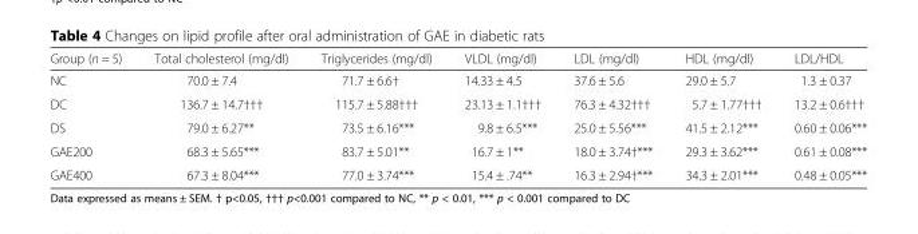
<table><thead><tr><td>Group (n = 5)</td><td>Total cholesterol (mg/dl)</td><td>Triglycerides (mg/dl)</td><td>VLDL (mg/dl)</td><td>LDL (mg/dl)</td><td>HDL (mg/dl)</td><td>LDL/HDL</td></tr></thead><tbody><tr><td>NC</td><td>70.0 ± 7.4</td><td>71.7 ± 6.6†</td><td>14.33 ± 4.5</td><td>37.6 ± 5.6</td><td>29.0 ± 5.7</td><td>1.3 ± 0.37</td></tr><tr><td>DC</td><td>136.7 ± 14.7†††</td><td>115.7 ± 5.88†††</td><td>23.13 ± 1.1†††</td><td>76.3 ± 4.32†††</td><td>5.7 ± 1.77†††</td><td>13.2 ± 0.6†††</td></tr><tr><td>DS</td><td>79.0 ± 6.27**</td><td>73.5 ± 6.16***</td><td>9.8 ± 6.5***</td><td>25.0 ± 5.56***</td><td>41.5 ± 2.12***</td><td>0.60 ± 0.06***</td></tr><tr><td>GAE200</td><td>68.3 ± 5.65***</td><td>83.7 ± 5.01**</td><td>16.7 ± 1**</td><td>18.0 ± 3.74†***</td><td>29.3 ± 3.62***</td><td>0.61 ± 0.08***</td></tr><tr><td>GAE400</td><td>67.3 ± 8.04***</td><td>77.0 ± 3.74***</td><td>15.4 ± .74**</td><td>16.3 ± 2.94†***</td><td>34.3 ± 2.01***</td><td>0.48 ± 0.05***</td></tr></tbody></table>